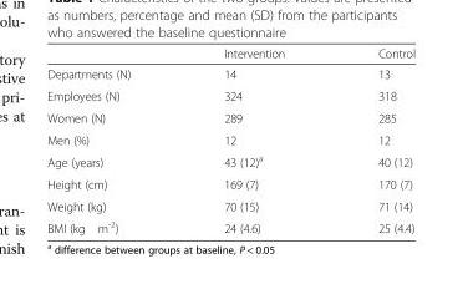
<table><thead><tr><td></td><td>Intervention</td><td>Control</td></tr></thead><tbody><tr><td>Departments (N)</td><td>14</td><td>13</td></tr><tr><td>Employees (N)</td><td>324</td><td>318</td></tr><tr><td>Women (N)</td><td>289</td><td>285</td></tr><tr><td>Men (%)</td><td>12</td><td>12</td></tr><tr><td>Age (years)</td><td>43 (12)<sup>a</sup></td><td>40 (12)</td></tr><tr><td>Height (cm)</td><td>169 (7)</td><td>170 (7)</td></tr><tr><td>Weight (kg)</td><td>70 (15)</td><td>71 (14)</td></tr><tr><td>BMI (kg m-2)</td><td>24 (4.6)</td><td>25 (4.4)</td></tr></tbody></table>